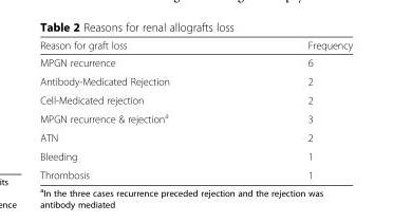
<table><thead><tr><td>Reason for graft loss</td><td>Frequency</td></tr></thead><tbody><tr><td>MPGN recurrence</td><td>6</td></tr><tr><td>Antibody-Medicated Rejection</td><td>2</td></tr><tr><td>Cell-Medicated rejection</td><td>2</td></tr><tr><td>MPGN recurrence &amp; rejection<sup>a</sup></td><td>3</td></tr><tr><td>ATN</td><td>2</td></tr><tr><td>Bleeding</td><td>1</td></tr><tr><td>Thrombosis</td><td>1</td></tr></tbody></table>